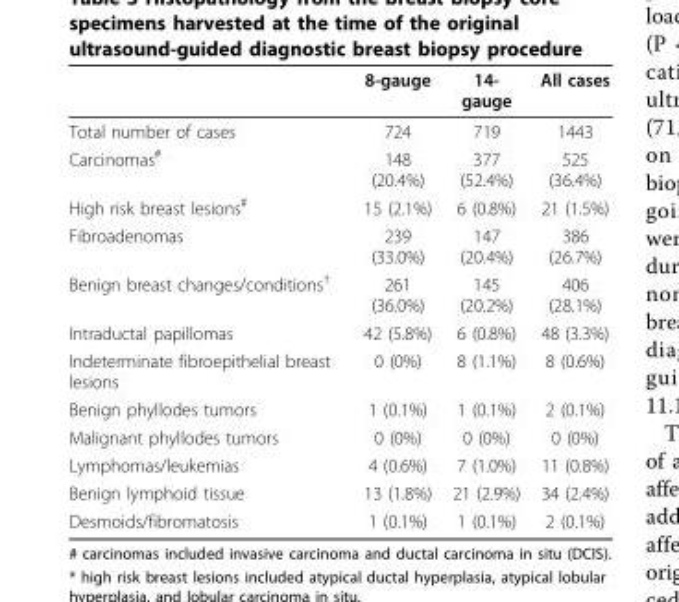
<table><thead><tr><td></td><td>8-gauge</td><td>14- gauge</td><td>All cases</td></tr></thead><tbody><tr><td>Total number of cases</td><td>724</td><td>719</td><td>1443</td></tr><tr><td>Carcinomas<sup>#</sup></td><td>148 (20.4%)</td><td>377 (52.4%)</td><td>525 (36.4%)</td></tr><tr><td>High risk breast lesions<sup>#</sup></td><td>15 (2.1%)</td><td>6 (0.8%)</td><td>21 (1.5%)</td></tr><tr><td>Fibroadenomas</td><td>239 (33.0%)</td><td>147 (20.4%)</td><td>386 (26.7%)</td></tr><tr><td>Benign breast changes/conditions<sup>†</sup></td><td>261 (36.0%)</td><td>145 (20.2%)</td><td>406 (28.1%)</td></tr><tr><td>Intraductal papillomas</td><td>42 (5.8%)</td><td>6 (0.8%)</td><td>48 (3.3%)</td></tr><tr><td>Indeterminate fibroepithelial breast lesions</td><td>0 (0%)</td><td>8 (1.1%)</td><td>8 (0.6%)</td></tr><tr><td>Benign phyllodes tumors</td><td>1 (0.1%)</td><td>1 (0.1%)</td><td>2 (0.1%)</td></tr><tr><td>Malignant phyllodes tumors</td><td>0 (0%)</td><td>0 (0%)</td><td>0 (0%)</td></tr><tr><td>Lymphomas/leukemias</td><td>4 (0.6%)</td><td>7 (1.0%)</td><td>11 (0.8%)</td></tr><tr><td>Benign lymphoid tissue</td><td>13 (1.8%)</td><td>21 (2.9%)</td><td>34 (2.4%)</td></tr><tr><td>Desmoids/fibromatosis</td><td>1 (0.1%)</td><td>1 (0.1%)</td><td>2 (0.1%)</td></tr></tbody></table>